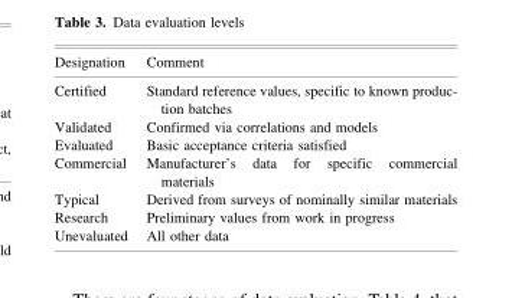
<table><thead><tr><td>Designation</td><td>Comment</td></tr></thead><tbody><tr><td>Certified</td><td>Standard reference values, specific to known produc- tion batches</td></tr><tr><td>Validated</td><td>Confirmed via correlations and models</td></tr><tr><td>Evaluated</td><td>Basic acceptance criteria satisfied</td></tr><tr><td>Commercial</td><td>Manufacturer’s data for specific commercial materials</td></tr><tr><td>Typical</td><td>Derived from surveys of nominally similar materials</td></tr><tr><td>Research</td><td>Preliminary values from work in progress</td></tr><tr><td>Unevaluated</td><td>All other data</td></tr></tbody></table>